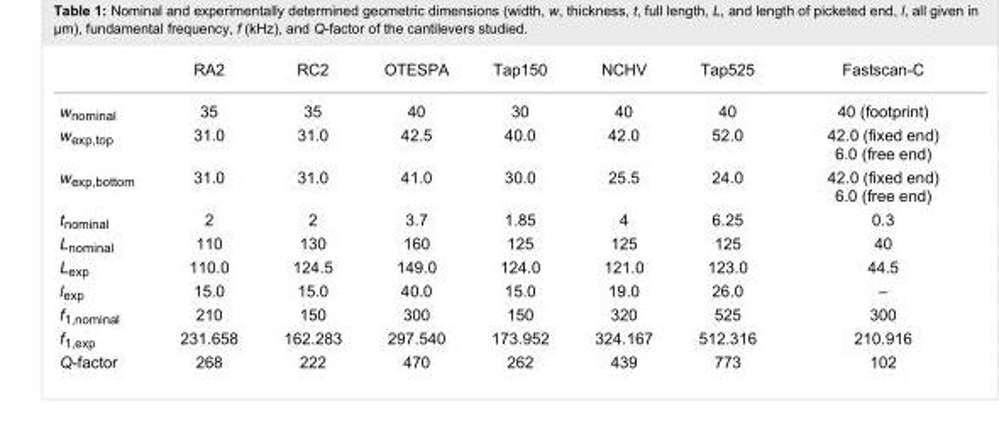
<table><thead><tr><td></td><td>RA2</td><td>RC2</td><td>OTESPA</td><td>Tap150</td><td>NCHV</td><td>Tap525</td><td>Fastscan-C</td></tr></thead><tbody><tr><td>w<sub>nominal</sub></td><td>35</td><td>35</td><td>40</td><td>30</td><td>40</td><td>40</td><td>40 (footprint)</td></tr><tr><td>w<sub>exp,top</sub></td><td>31.0</td><td>31.0</td><td>42.5</td><td>40.0</td><td>42.0</td><td>52.0</td><td>42.0 (fixed end) 6.0 (free end)</td></tr><tr><td>w<sub>exp,bottom</sub></td><td>31.0</td><td>31.0</td><td>41.0</td><td>30.0</td><td>25.5</td><td>24.0</td><td>42.0 (fixed end) 6.0 (free end)</td></tr><tr><td>t<sub>nominal</sub></td><td>2</td><td>2</td><td>3.7</td><td>1.85</td><td>4</td><td>6.25</td><td>0.3</td></tr><tr><td>L<sub>nominal</sub></td><td>110</td><td>130</td><td>160</td><td>125</td><td>125</td><td>125</td><td>40</td></tr><tr><td>L<sub>exp</sub></td><td>110.0</td><td>124.5</td><td>149.0</td><td>124.0</td><td>121.0</td><td>123.0</td><td>44.5</td></tr><tr><td>l<sub>exp</sub></td><td>15.0</td><td>15.0</td><td>40.0</td><td>15.0</td><td>19.0</td><td>26.0</td><td>–</td></tr><tr><td>f<sub>1,nominal</sub></td><td>210</td><td>150</td><td>300</td><td>150</td><td>320</td><td>525</td><td>300</td></tr><tr><td>f<sub>1,exp</sub></td><td>231.658</td><td>162.283</td><td>297.540</td><td>173.952</td><td>324.167</td><td>512.316</td><td>210.916</td></tr><tr><td>Q-factor</td><td>268</td><td>222</td><td>470</td><td>262</td><td>439</td><td>773</td><td>102</td></tr></tbody></table>